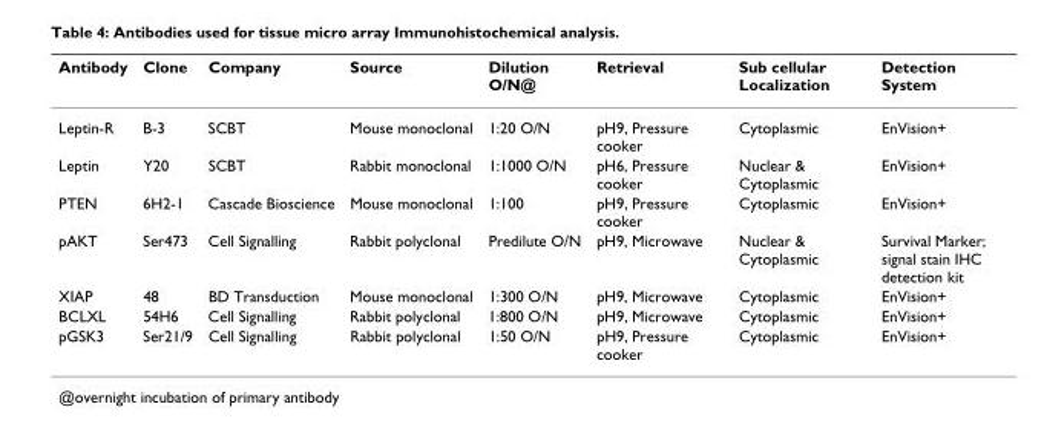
<table><thead><tr><td>Antibody</td><td>Clone</td><td>Company</td><td>Source</td><td>Dilution O/N@</td><td>Retrieval</td><td>Sub cellular Localization</td><td>Detection System</td></tr></thead><tbody><tr><td>Leptin-R</td><td>B-3</td><td>SCBT</td><td>Mouse monoclonal</td><td>1:20 O/N</td><td>pH9, Pressure cooker</td><td>Cytoplasmic</td><td>EnVision+</td></tr><tr><td>Leptin</td><td>Y20</td><td>SCBT</td><td>Rabbit monoclonal</td><td>1:1000 O/N</td><td>pH6, Pressure cooker</td><td>Nuclear &amp; Cytoplasmic</td><td>EnVision+</td></tr><tr><td>PTEN</td><td>6H2-1</td><td>Cascade Bioscience</td><td>Mouse monoclonal</td><td>1:100</td><td>pH9, Pressure cooker</td><td>Cytoplasmic</td><td>EnVision+</td></tr><tr><td>pAKT</td><td>Ser473</td><td>Cell Signalling</td><td>Rabbit polyclonal</td><td>Predilute O/N</td><td>pH9, Microwave</td><td>Nuclear &amp; Cytoplasmic</td><td>Survival Marker; signal stain IHC detection kit</td></tr><tr><td>XIAP</td><td>48</td><td>BD Transduction</td><td>Mouse monoclonal</td><td>1:300 O/N</td><td>pH9, Microwave</td><td>Cytoplasmic</td><td>EnVision+</td></tr><tr><td>BCLXL</td><td>54H6</td><td>Cell Signalling</td><td>Rabbit polyclonal</td><td>1:800 O/N</td><td>pH9, Microwave</td><td>Cytoplasmic</td><td>EnVision+</td></tr><tr><td>pGSK3</td><td>Ser21/9</td><td>Cell Signalling</td><td>Rabbit polyclonal</td><td>1:50 O/N</td><td>pH9, Pressure cooker</td><td>Cytoplasmic</td><td>EnVision+</td></tr></tbody></table>